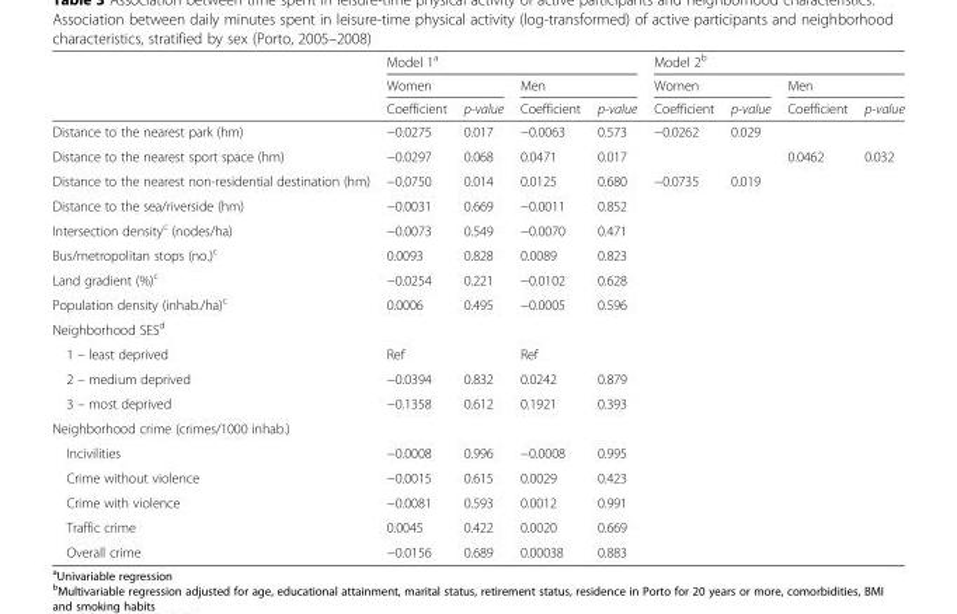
<table><thead><tr><td rowspan="3"></td><td colspan="4">Model 1<sup>a</sup></td><td colspan="4">Model 2<sup>b</sup></td></tr><tr><td colspan="2">Women</td><td colspan="2">Men</td><td colspan="2">Women</td><td colspan="2">Men</td></tr><tr><td>Coefficient</td><td>p-value</td><td>Coefficient</td><td>p-value</td><td>Coefficient</td><td>p-value</td><td>Coefficient</td><td>p-value</td></tr></thead><tbody><tr><td>Distance to the nearest park (hm)</td><td>−0.0275</td><td>0.017</td><td>−0.0063</td><td>0.573</td><td>−0.0262</td><td>0.029</td><td></td><td></td></tr><tr><td>Distance to the nearest sport space (hm)</td><td>−0.0297</td><td>0.068</td><td>0.0471</td><td>0.017</td><td></td><td></td><td>0.0462</td><td>0.032</td></tr><tr><td>Distance to the nearest non-residential destination (hm)</td><td>−0.0750</td><td>0.014</td><td>0.0125</td><td>0.680</td><td>−0.0735</td><td>0.019</td><td></td><td></td></tr><tr><td>Distance to the sea/riverside (hm)</td><td>−0.0031</td><td>0.669</td><td>−0.0011</td><td>0.852</td><td></td><td></td><td></td><td></td></tr><tr><td>Intersection density<sup>c</sup> (nodes/ha)</td><td>−0.0073</td><td>0.549</td><td>−0.0070</td><td>0.471</td><td></td><td></td><td></td><td></td></tr><tr><td>Bus/metropolitan stops (no.)<sup>c</sup></td><td>0.0093</td><td>0.828</td><td>0.0089</td><td>0.823</td><td></td><td></td><td></td><td></td></tr><tr><td>Land gradient (%)<sup>c</sup></td><td>−0.0254</td><td>0.221</td><td>−0.0102</td><td>0.628</td><td></td><td></td><td></td><td></td></tr><tr><td>Population density (inhab./ha)<sup>c</sup></td><td>0.0006</td><td>0.495</td><td>−0.0005</td><td>0.596</td><td></td><td></td><td></td><td></td></tr><tr><td colspan="9">Neighborhood SES<sup>d</sup></td></tr><tr><td>1 – least deprived</td><td>Ref</td><td></td><td>Ref</td><td></td><td></td><td></td><td></td><td></td></tr><tr><td>2 – medium deprived</td><td>−0.0394</td><td>0.832</td><td>0.0242</td><td>0.879</td><td></td><td></td><td></td><td></td></tr><tr><td>3 – most deprived</td><td>−0.1358</td><td>0.612</td><td>0.1921</td><td>0.393</td><td></td><td></td><td></td><td></td></tr><tr><td colspan="9">Neighborhood crime (crimes/1000 inhab.)</td></tr><tr><td>Incivilities</td><td>−0.0008</td><td>0.996</td><td>−0.0008</td><td>0.995</td><td></td><td></td><td></td><td></td></tr><tr><td>Crime without violence</td><td>−0.0015</td><td>0.615</td><td>0.0029</td><td>0.423</td><td></td><td></td><td></td><td></td></tr><tr><td>Crime with violence</td><td>−0.0081</td><td>0.593</td><td>0.0012</td><td>0.991</td><td></td><td></td><td></td><td></td></tr><tr><td>Traffic crime</td><td>0.0045</td><td>0.422</td><td>0.0020</td><td>0.669</td><td></td><td></td><td></td><td></td></tr><tr><td>Overall crime</td><td>−0.0156</td><td>0.689</td><td>0.00038</td><td>0.883</td><td></td><td></td><td></td><td></td></tr></tbody></table>